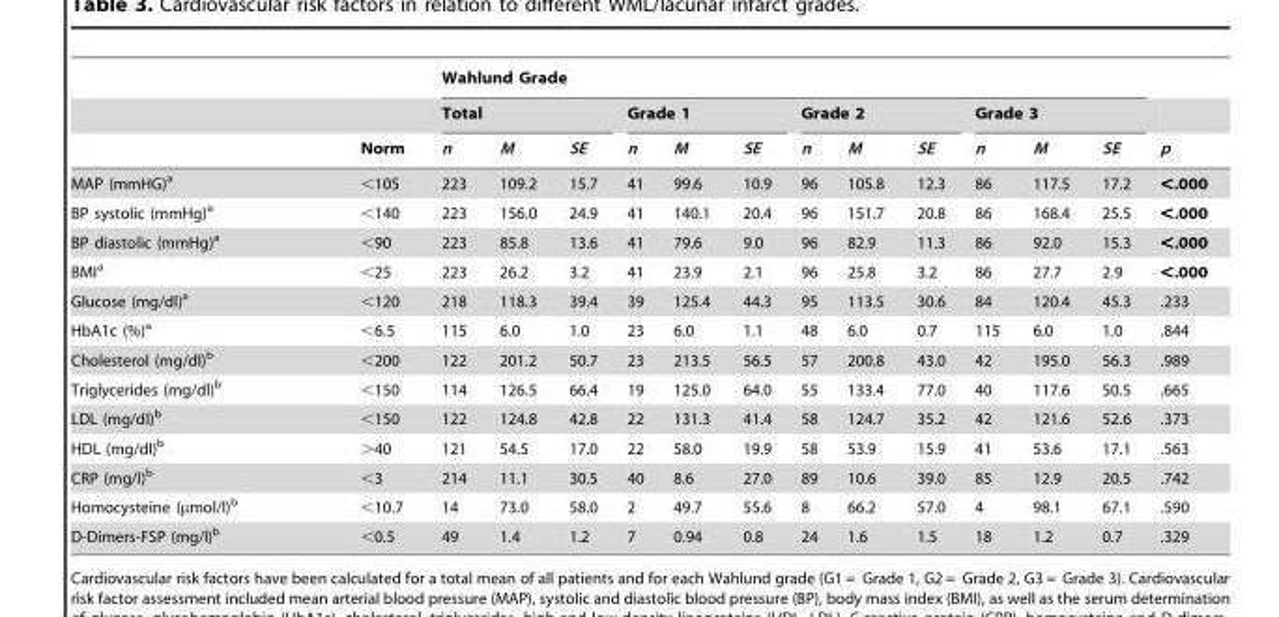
<table><thead><tr><td rowspan="3"></td><td rowspan="3">Norm</td><td colspan="12">Wahlund Grade</td><td rowspan="3">p</td></tr><tr><td colspan="3">Total</td><td colspan="3">Grade 1</td><td colspan="3">Grade 2</td><td colspan="3">Grade 3</td></tr><tr><td>n</td><td>M</td><td>SE</td><td>n</td><td>M</td><td>SE</td><td>n</td><td>M</td><td>SE</td><td>n</td><td>M</td><td>SE</td></tr></thead><tbody><tr><td>MAP (mmHG)<sup>a</sup></td><td>&lt;105</td><td>223</td><td>109.2</td><td>15.7</td><td>41</td><td>99.6</td><td>10.9</td><td>96</td><td>105.8</td><td>12.3</td><td>86</td><td>117.5</td><td>17.2</td><td>&lt;.000</td></tr><tr><td>BP systolic (mmHg)<sup>a</sup></td><td>&lt;140</td><td>223</td><td>156.0</td><td>24.9</td><td>41</td><td>140.1</td><td>20.4</td><td>96</td><td>151.7</td><td>20.8</td><td>86</td><td>168.4</td><td>25.5</td><td>&lt;.000</td></tr><tr><td>BP diastolic (mmHg)<sup>a</sup></td><td>&lt;90</td><td>223</td><td>85.8</td><td>13.6</td><td>41</td><td>79.6</td><td>9.0</td><td>96</td><td>82.9</td><td>11.3</td><td>86</td><td>92.0</td><td>15.3</td><td>&lt;.000</td></tr><tr><td>BMI<sup>a</sup></td><td>&lt;25</td><td>223</td><td>26.2</td><td>3.2</td><td>41</td><td>23.9</td><td>2.1</td><td>96</td><td>25.8</td><td>3.2</td><td>86</td><td>27.7</td><td>2.9</td><td>&lt;.000</td></tr><tr><td>Glucose (mg/dl)<sup>a</sup></td><td>&lt;120</td><td>218</td><td>118.3</td><td>39.4</td><td>39</td><td>125.4</td><td>44.3</td><td>95</td><td>113.5</td><td>30.6</td><td>84</td><td>120.4</td><td>45.3</td><td>.233</td></tr><tr><td>HbA1c (%)<sup>a</sup></td><td>&lt;6.5</td><td>115</td><td>6.0</td><td>1.0</td><td>23</td><td>6.0</td><td>1.1</td><td>48</td><td>6.0</td><td>0.7</td><td>115</td><td>6.0</td><td>1.0</td><td>.844</td></tr><tr><td>Cholesterol (mg/dl)<sup>b</sup></td><td>&lt;200</td><td>122</td><td>201.2</td><td>50.7</td><td>23</td><td>213.5</td><td>56.5</td><td>57</td><td>200.8</td><td>43.0</td><td>42</td><td>195.0</td><td>56.3</td><td>.989</td></tr><tr><td>Triglycerides (mg/dl)<sup>b</sup></td><td>&lt;150</td><td>114</td><td>126.5</td><td>66.4</td><td>19</td><td>125.0</td><td>64.0</td><td>55</td><td>133.4</td><td>77.0</td><td>40</td><td>117.6</td><td>50.5</td><td>.665</td></tr><tr><td>LDL (mg/dl)<sup>b</sup></td><td>&lt;150</td><td>122</td><td>124.8</td><td>42.8</td><td>22</td><td>131.3</td><td>41.4</td><td>58</td><td>124.7</td><td>35.2</td><td>42</td><td>121.6</td><td>52.6</td><td>.373</td></tr><tr><td>HDL (mg/dl)<sup>b</sup></td><td>&gt;40</td><td>121</td><td>54.5</td><td>17.0</td><td>22</td><td>58.0</td><td>19.9</td><td>58</td><td>53.9</td><td>15.9</td><td>41</td><td>53.6</td><td>17.1</td><td>.563</td></tr><tr><td>CRP (mg/l)<sup>b</sup></td><td>&lt;3</td><td>214</td><td>11.1</td><td>30.5</td><td>40</td><td>8.6</td><td>27.0</td><td>89</td><td>10.6</td><td>39.0</td><td>85</td><td>12.9</td><td>20.5</td><td>.742</td></tr><tr><td>Homocysteine (μmol/l)<sup>b</sup></td><td>&lt;10.7</td><td>14</td><td>73.0</td><td>58.0</td><td>2</td><td>49.7</td><td>55.6</td><td>8</td><td>66.2</td><td>57.0</td><td>4</td><td>98.1</td><td>67.1</td><td>.590</td></tr><tr><td>D-Dimers-FSP (mg/l)<sup>b</sup></td><td>&lt;0.5</td><td>49</td><td>1.4</td><td>1.2</td><td>7</td><td>0.94</td><td>0.8</td><td>24</td><td>1.6</td><td>1.5</td><td>18</td><td>1.2</td><td>0.7</td><td>.329</td></tr></tbody></table>